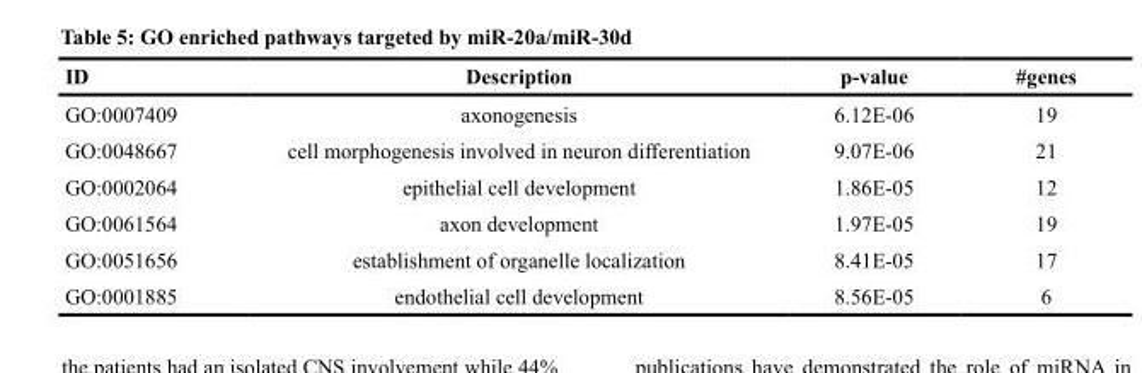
<table><thead><tr><td>ID</td><td>Description</td><td>p-value</td><td>#genes</td></tr></thead><tbody><tr><td>GO:0007409</td><td>axonogenesis</td><td>6.12E-06</td><td>19</td></tr><tr><td>GO:0048667</td><td>cell morphogenesis involved in neuron differentiation</td><td>9.07E-06</td><td>21</td></tr><tr><td>GO:0002064</td><td>epithelial cell development</td><td>1.86E-05</td><td>12</td></tr><tr><td>GO:0061564</td><td>axon development</td><td>1.97E-05</td><td>19</td></tr><tr><td>GO:0051656</td><td>establishment of organelle localization</td><td>8.41E-05</td><td>17</td></tr><tr><td>GO:0001885</td><td>endothelial cell development</td><td>8.56E-05</td><td>6</td></tr></tbody></table>